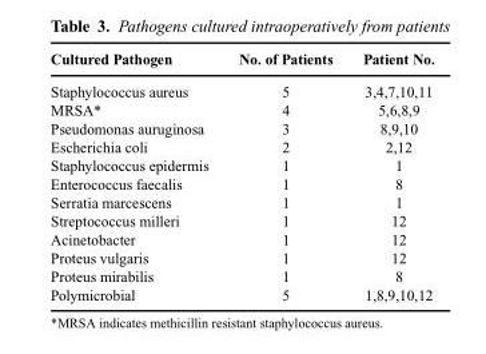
<table><thead><tr><td>Cultured Pathogen</td><td>No. of Patients</td><td>Patient No.</td></tr></thead><tbody><tr><td>Staphylococcus aureus</td><td>5</td><td>3,4,7,10,11</td></tr><tr><td>MRSA*</td><td>4</td><td>5,6,8,9</td></tr><tr><td>Pseudomonas auruginosa</td><td>3</td><td>8,9,10</td></tr><tr><td>Escherichia coli</td><td>2</td><td>2,12</td></tr><tr><td>Staphylococcus epidermis</td><td>1</td><td>1</td></tr><tr><td>Enterococcus faecalis</td><td>1</td><td>8</td></tr><tr><td>Serratia marcescens</td><td>1</td><td>1</td></tr><tr><td>Streptococcus milleri</td><td>1</td><td>12</td></tr><tr><td>Acinetobacter</td><td>1</td><td>12</td></tr><tr><td>Proteus vulgaris</td><td>1</td><td>12</td></tr><tr><td>Proteus mirabilis</td><td>1</td><td>8</td></tr><tr><td>Polymicrobial</td><td>5</td><td>1,8,9,10,12</td></tr></tbody></table>